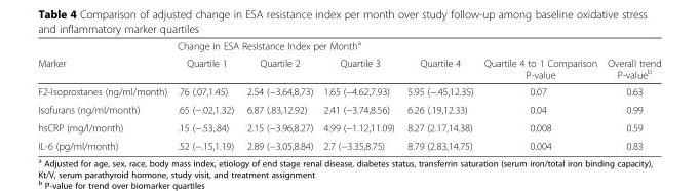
<table><thead><tr><td rowspan="2">Marker</td><td colspan="6">Change in ESA Resistance Index per Month<sup>a</sup></td></tr><tr><td>Quartile 1</td><td>Quartile 2</td><td>Quartile 3</td><td>Quartile 4</td><td>Quartile 4 to 1 Comparison P-value</td><td>Overall trend P-value<sup>b</sup></td></tr></thead><tbody><tr><td>F2-Isoprostanes (ng/ml/month)</td><td>.76 (.07,1.45)</td><td>2.54 (−3.64,8.73)</td><td>1.65 (−4.62,7.93)</td><td>5.95 (−.45,12.35)</td><td>0.07</td><td>0.63</td></tr><tr><td>Isofurans (ng/ml/month)</td><td>.65 (−.02,1.32)</td><td>6.87 (.83,12.92)</td><td>2.41 (−3.74,8.56)</td><td>6.26 (.19,12.33)</td><td>0.04</td><td>0.99</td></tr><tr><td>hsCRP (mg/l/month)</td><td>.15 (−.53,.84)</td><td>2.15 (−3.96,8.27)</td><td>4.99 (−1.12,11.09)</td><td>8.27 (2.17,14.38)</td><td>0.008</td><td>0.59</td></tr><tr><td>IL-6 (pg/ml/month)</td><td>.52 (−.15,1.19)</td><td>2.89 (−3.05,8.84)</td><td>2.7 (−3.35,8.75)</td><td>8.79 (2.83,14.75)</td><td>0.004</td><td>0.83</td></tr></tbody></table>